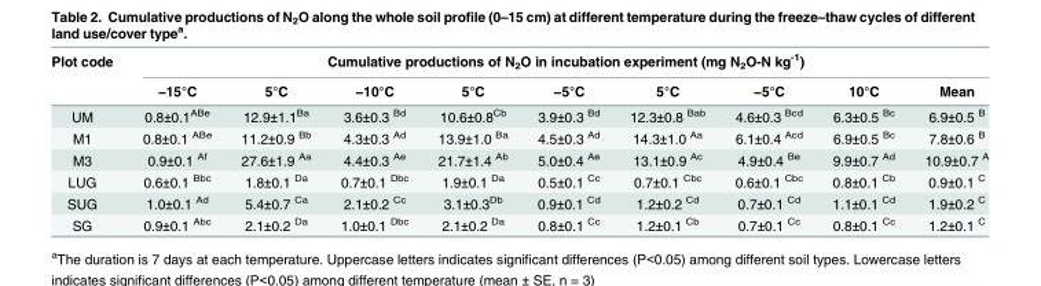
<table><thead><tr><td rowspan="2">Plot code</td><td colspan="9">Cumulative productions of N<sub>2</sub>O in incubation experiment (mg N<sub>2</sub>O-N kg<sup>-1</sup>)</td></tr><tr><td>−15°C</td><td>5°C</td><td>−10°C</td><td>5°C</td><td>−5°C</td><td>5°C</td><td>−5°C</td><td>10°C</td><td>Mean</td></tr></thead><tbody><tr><td>UM</td><td>0.8±0.1<sup>ABe</sup></td><td>12.9±1.1<sup>Ba</sup></td><td>3.6±0.3 <sup>Bd</sup></td><td>10.6±0.8<sup>Cb</sup></td><td>3.9±0.3 <sup>Bd</sup></td><td>12.3±0.8 <sup>Bab</sup></td><td>4.6±0.3 <sup>Bcd</sup></td><td>6.3±0.5 <sup>Bc</sup></td><td>6.9±0.5 <sup>B</sup></td></tr><tr><td>M1</td><td>0.8±0.1 <sup>ABe</sup></td><td>11.2±0.9 <sup>Bb</sup></td><td>4.3±0.3 <sup>Ad</sup></td><td>13.9±1.0 <sup>Ba</sup></td><td>4.5±0.3 <sup>Ad</sup></td><td>14.3±1.0 <sup>Aa</sup></td><td>6.1±0.4 <sup>Acd</sup></td><td>6.9±0.5 <sup>Bc</sup></td><td>7.8±0.6 <sup>B</sup></td></tr><tr><td>M3</td><td>0.9±0.1 <sup>Af</sup></td><td>27.6±1.9 <sup>Aa</sup></td><td>4.4±0.3 <sup>Ae</sup></td><td>21.7±1.4 <sup>Ab</sup></td><td>5.0±0.4 <sup>Ae</sup></td><td>13.1±0.9 <sup>Ac</sup></td><td>4.9±0.4 <sup>Be</sup></td><td>9.9±0.7 <sup>Ad</sup></td><td>10.9±0.7 <sup>A</sup></td></tr><tr><td>LUG</td><td>0.6±0.1 <sup>Bbc</sup></td><td>1.8±0.1 <sup>Da</sup></td><td>0.7±0.1 <sup>Dbc</sup></td><td>1.9±0.1 <sup>Da</sup></td><td>0.5±0.1 <sup>Cc</sup></td><td>0.7±0.1 <sup>Cbc</sup></td><td>0.6±0.1 <sup>Cbc</sup></td><td>0.8±0.1 <sup>Cb</sup></td><td>0.9±0.1 <sup>C</sup></td></tr><tr><td>SUG</td><td>1.0±0.1 <sup>Ad</sup></td><td>5.4±0.7 <sup>Ca</sup></td><td>2.1±0.2 <sup>Cc</sup></td><td>3.1±0.3<sup>Db</sup></td><td>0.9±0.1 <sup>Cd</sup></td><td>1.2±0.2 <sup>Cd</sup></td><td>0.7±0.1 <sup>Cd</sup></td><td>1.1±0.1 <sup>Cd</sup></td><td>1.9±0.2 <sup>C</sup></td></tr><tr><td>SG</td><td>0.9±0.1 <sup>Abc</sup></td><td>2.1±0.2 <sup>Da</sup></td><td>1.0±0.1 <sup>Dbc</sup></td><td>2.1±0.2 <sup>Da</sup></td><td>0.8±0.1 <sup>Cc</sup></td><td>1.2±0.1 <sup>Cb</sup></td><td>0.7±0.1 <sup>Cc</sup></td><td>0.8±0.1 <sup>Cc</sup></td><td>1.2±0.1 <sup>C</sup></td></tr></tbody></table>